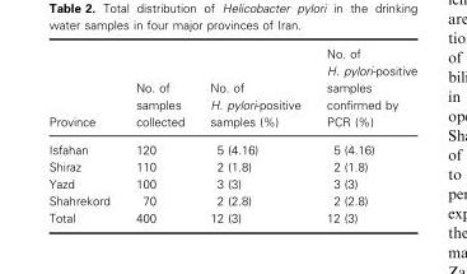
<table><thead><tr><td>Province</td><td>No. of samples collected</td><td>No. of H. pylori-positive samples (%)</td><td>No. of H. pylori-positive samples confirmed by PCR (%)</td></tr></thead><tbody><tr><td>Isfahan</td><td>120</td><td>5 (4.16)</td><td>5 (4.16)</td></tr><tr><td>Shiraz</td><td>110</td><td>2 (1.8)</td><td>2 (1.8)</td></tr><tr><td>Yazd</td><td>100</td><td>3 (3)</td><td>3 (3)</td></tr><tr><td>Shahrekord</td><td>70</td><td>2 (2.8)</td><td>2 (2.8)</td></tr><tr><td>Total</td><td>400</td><td>12 (3)</td><td>12 (3)</td></tr></tbody></table>